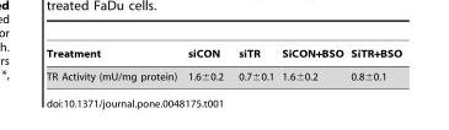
<table><thead><tr><td>Treatment</td><td>siCON</td><td>siTR</td><td>SiCON+BSO</td><td>SiTR+BSO</td></tr></thead><tbody><tr><td>TR Activity (mU/mg protein)</td><td>1.6±0.2</td><td>0.7±0.1</td><td>1.6±0.2</td><td>0.8±0.1</td></tr></tbody></table>